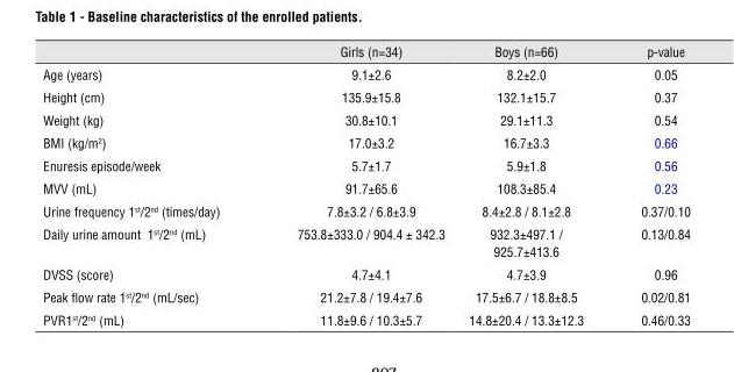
<table><thead><tr><td></td><td>Girls (n=34)</td><td>Boys (n=66)</td><td>p-value</td></tr></thead><tbody><tr><td>Age (years)</td><td>9.1±2.6</td><td>8.2±2.0</td><td>0.05</td></tr><tr><td>Height (cm)</td><td>135.9±15.8</td><td>132.1±15.7</td><td>0.37</td></tr><tr><td>Weight (kg)</td><td>30.8±10.1</td><td>29.1±11.3</td><td>0.54</td></tr><tr><td>BMI (kg/m<sup>2</sup>)</td><td>17.0±3.2</td><td>16.7±3.3</td><td>0.66</td></tr><tr><td>Enuresis episode/week</td><td>5.7±1.7</td><td>5.9±1.8</td><td>0.56</td></tr><tr><td>MVV (mL)</td><td>91.7±65.6</td><td>108.3±85.4</td><td>0.23</td></tr><tr><td>Urine frequency 1<sup>st</sup>/2<sup>nd</sup> (times/day)</td><td>7.8±3.2 / 6.8±3.9</td><td>8.4±2.8 / 8.1±2.8</td><td>0.37/0.10</td></tr><tr><td>Daily urine amount 1<sup>st</sup>/2<sup>nd</sup> (mL)</td><td>753.8±333.0 / 904.4 ± 342.3</td><td>932.3±497.1 / 925.7±413.6</td><td>0.13/0.84</td></tr><tr><td>DVSS (score)</td><td>4.7±4.1</td><td>4.7±3.9</td><td>0.96</td></tr><tr><td>Peak flow rate 1<sup>st</sup>/2<sup>nd</sup> (mL/sec)</td><td>21.2±7.8 / 19.4±7.6</td><td>17.5±6.7 / 18.8±8.5</td><td>0.02/0.81</td></tr><tr><td>PVR1<sup>st</sup>/2<sup>nd</sup> (mL)</td><td>11.8±9.6 / 10.3±5.7</td><td>14.8±20.4 / 13.3±12.3</td><td>0.46/0.33</td></tr></tbody></table>